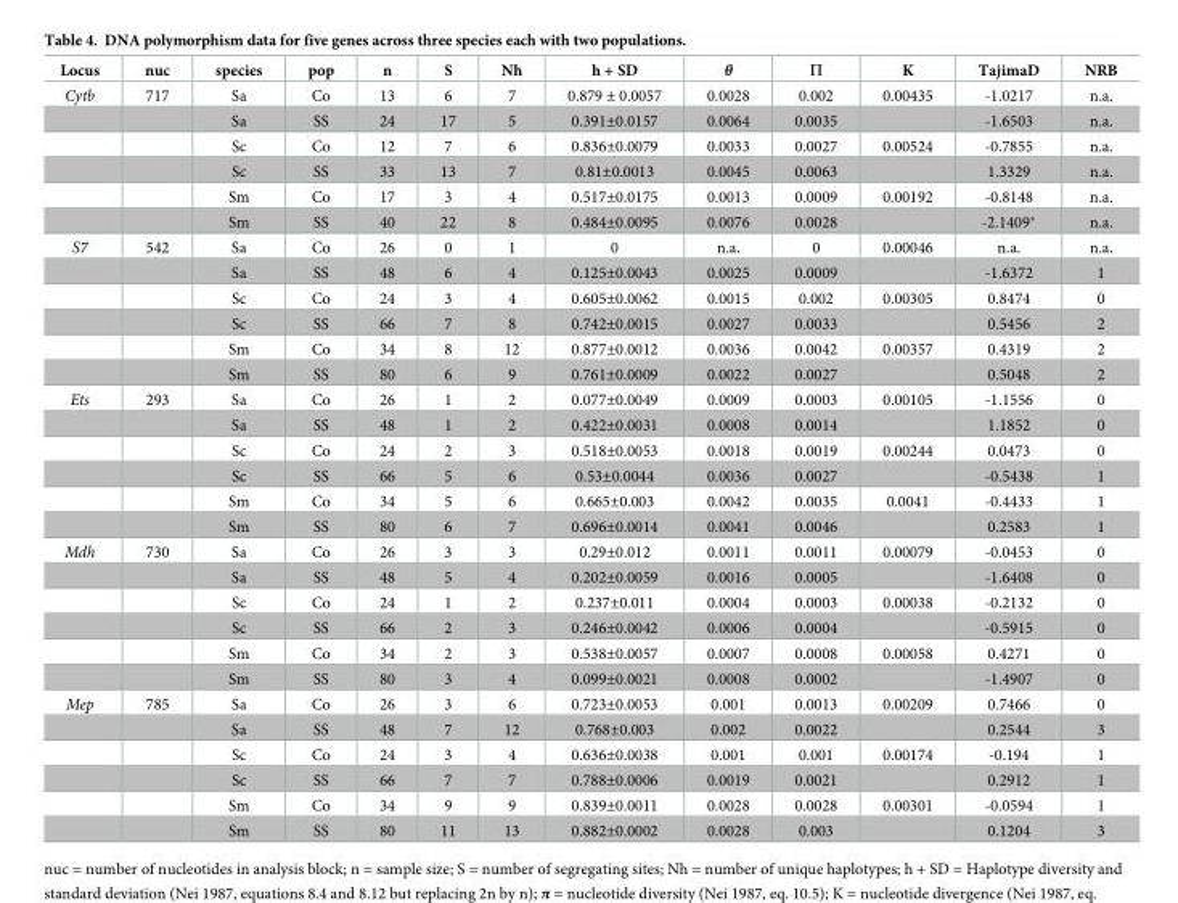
<table><thead><tr><td>Locus</td><td>nuc</td><td>species</td><td>pop</td><td>n</td><td>S</td><td>Nh</td><td>h + SD</td><td>θ</td><td>Π</td><td>K</td><td>TajimaD</td><td>NRB</td></tr></thead><tbody><tr><td rowspan="6">Cytb</td><td>717</td><td>Sa</td><td>Co</td><td>13</td><td>6</td><td>7</td><td>0.879 ± 0.0057</td><td>0.0028</td><td>0.002</td><td>0.00435</td><td>-1.0217</td><td>n.a.</td></tr><tr><td></td><td>Sa</td><td>SS</td><td>24</td><td>17</td><td>5</td><td>0.391±0.0157</td><td>0.0064</td><td>0.0035</td><td></td><td>-1.6503</td><td>n.a.</td></tr><tr><td></td><td>Sc</td><td>Co</td><td>12</td><td>7</td><td>6</td><td>0.836±0.0079</td><td>0.0033</td><td>0.0027</td><td>0.00524</td><td>-0.7855</td><td>n.a.</td></tr><tr><td></td><td>Sc</td><td>SS</td><td>33</td><td>13</td><td>7</td><td>0.81±0.0013</td><td>0.0045</td><td>0.0063</td><td></td><td>1.3329</td><td>n.a.</td></tr><tr><td></td><td>Sm</td><td>Co</td><td>17</td><td>3</td><td>4</td><td>0.517±0.0175</td><td>0.0013</td><td>0.0009</td><td>0.00192</td><td>-0.8148</td><td>n.a.</td></tr><tr><td></td><td>Sm</td><td>SS</td><td>40</td><td>22</td><td>8</td><td>0.484±0.0095</td><td>0.0076</td><td>0.0028</td><td></td><td>-2.1409*</td><td>n.a.</td></tr><tr><td rowspan="6">S7</td><td>542</td><td>Sa</td><td>Co</td><td>26</td><td>0</td><td>1</td><td>0</td><td>n.a.</td><td>0</td><td>0.00046</td><td>n.a.</td><td>n.a.</td></tr><tr><td></td><td>Sa</td><td>SS</td><td>48</td><td>6</td><td>4</td><td>0.125±0.0043</td><td>0.0025</td><td>0.0009</td><td></td><td>-1.6372</td><td>1</td></tr><tr><td></td><td>Sc</td><td>Co</td><td>24</td><td>3</td><td>4</td><td>0.605±0.0062</td><td>0.0015</td><td>0.002</td><td>0.00305</td><td>0.8474</td><td>0</td></tr><tr><td></td><td>Sc</td><td>SS</td><td>66</td><td>7</td><td>8</td><td>0.742±0.0015</td><td>0.0027</td><td>0.0033</td><td></td><td>0.5456</td><td>2</td></tr><tr><td></td><td>Sm</td><td>Co</td><td>34</td><td>8</td><td>12</td><td>0.877±0.0012</td><td>0.0036</td><td>0.0042</td><td>0.00357</td><td>0.4319</td><td>2</td></tr><tr><td></td><td>Sm</td><td>SS</td><td>80</td><td>6</td><td>9</td><td>0.761±0.0009</td><td>0.0022</td><td>0.0027</td><td></td><td>0.5048</td><td>2</td></tr><tr><td rowspan="6">Ets</td><td>293</td><td>Sa</td><td>Co</td><td>26</td><td>1</td><td>2</td><td>0.077±0.0049</td><td>0.0009</td><td>0.0003</td><td>0.00105</td><td>-1.1556</td><td>0</td></tr><tr><td></td><td>Sa</td><td>SS</td><td>48</td><td>1</td><td>2</td><td>0.422±0.0031</td><td>0.0008</td><td>0.0014</td><td></td><td>1.1852</td><td>0</td></tr><tr><td></td><td>Sc</td><td>Co</td><td>24</td><td>2</td><td>3</td><td>0.518±0.0053</td><td>0.0018</td><td>0.0019</td><td>0.00244</td><td>0.0473</td><td>0</td></tr><tr><td></td><td>Sc</td><td>SS</td><td>66</td><td>5</td><td>6</td><td>0.53±0.0044</td><td>0.0036</td><td>0.0027</td><td></td><td>-0.5438</td><td>1</td></tr><tr><td></td><td>Sm</td><td>Co</td><td>34</td><td>5</td><td>6</td><td>0.665±0.003</td><td>0.0042</td><td>0.0035</td><td>0.0041</td><td>-0.4433</td><td>1</td></tr><tr><td></td><td>Sm</td><td>SS</td><td>80</td><td>6</td><td>7</td><td>0.696±0.0014</td><td>0.0041</td><td>0.0046</td><td></td><td>0.2583</td><td>1</td></tr><tr><td rowspan="6">Mdh</td><td>730</td><td>Sa</td><td>Co</td><td>26</td><td>3</td><td>3</td><td>0.29±0.012</td><td>0.0011</td><td>0.0011</td><td>0.00079</td><td>-0.0453</td><td>0</td></tr><tr><td></td><td>Sa</td><td>SS</td><td>48</td><td>5</td><td>4</td><td>0.202±0.0059</td><td>0.0016</td><td>0.0005</td><td></td><td>-1.6408</td><td>0</td></tr><tr><td></td><td>Sc</td><td>Co</td><td>24</td><td>1</td><td>2</td><td>0.237±0.011</td><td>0.0004</td><td>0.0003</td><td>0.00038</td><td>-0.2132</td><td>0</td></tr><tr><td></td><td>Sc</td><td>SS</td><td>66</td><td>2</td><td>3</td><td>0.246±0.0042</td><td>0.0006</td><td>0.0004</td><td></td><td>-0.5915</td><td>0</td></tr><tr><td></td><td>Sm</td><td>Co</td><td>34</td><td>2</td><td>3</td><td>0.538±0.0057</td><td>0.0007</td><td>0.0008</td><td>0.00058</td><td>0.4271</td><td>0</td></tr><tr><td></td><td>Sm</td><td>SS</td><td>80</td><td>3</td><td>4</td><td>0.099±0.0021</td><td>0.0008</td><td>0.0002</td><td></td><td>-1.4907</td><td>0</td></tr><tr><td rowspan="6">Mep</td><td>785</td><td>Sa</td><td>Co</td><td>26</td><td>3</td><td>6</td><td>0.723±0.0053</td><td>0.001</td><td>0.0013</td><td>0.00209</td><td>0.7466</td><td>0</td></tr><tr><td></td><td>Sa</td><td>SS</td><td>48</td><td>7</td><td>12</td><td>0.768±0.003</td><td>0.002</td><td>0.0022</td><td></td><td>0.2544</td><td>3</td></tr><tr><td></td><td>Sc</td><td>Co</td><td>24</td><td>3</td><td>4</td><td>0.636±0.0038</td><td>0.001</td><td>0.001</td><td>0.00174</td><td>-0.194</td><td>1</td></tr><tr><td></td><td>Sc</td><td>SS</td><td>66</td><td>7</td><td>7</td><td>0.788±0.0006</td><td>0.0019</td><td>0.0021</td><td></td><td>0.2912</td><td>1</td></tr><tr><td></td><td>Sm</td><td>Co</td><td>34</td><td>9</td><td>9</td><td>0.839±0.0011</td><td>0.0028</td><td>0.0028</td><td>0.00301</td><td>-0.0594</td><td>1</td></tr><tr><td></td><td>Sm</td><td>SS</td><td>80</td><td>11</td><td>13</td><td>0.882±0.0002</td><td>0.0028</td><td>0.003</td><td></td><td>0.1204</td><td>3</td></tr></tbody></table>